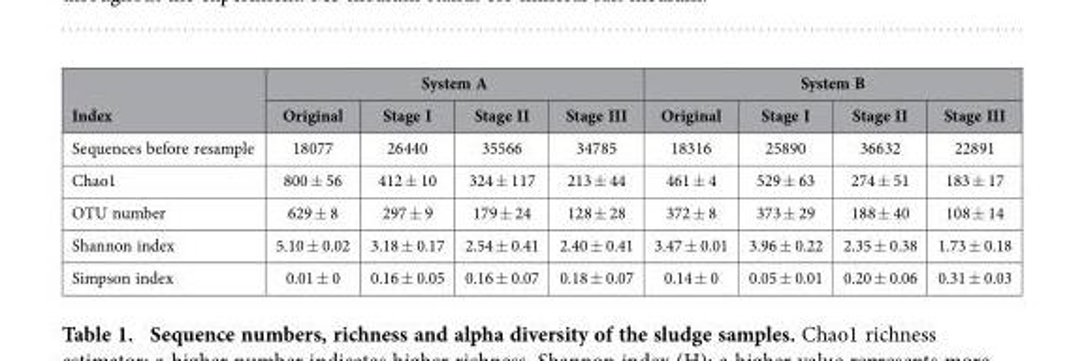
<table><thead><tr><td rowspan="2">Index</td><td colspan="4">System A</td><td colspan="4">System B</td></tr><tr><td>Original</td><td>Stage I</td><td>Stage II</td><td>Stage III</td><td>Original</td><td>Stage I</td><td>Stage II</td><td>Stage III</td></tr></thead><tbody><tr><td>Sequences before resample</td><td>18077</td><td>26440</td><td>35566</td><td>34785</td><td>18316</td><td>25890</td><td>36632</td><td>22891</td></tr><tr><td>Chao1</td><td>800 ± 56</td><td>412 ± 10</td><td>324 ± 117</td><td>213 ± 44</td><td>461 ± 4</td><td>529 ± 63</td><td>274 ± 51</td><td>183 ± 17</td></tr><tr><td>OTU number</td><td>629 ± 8</td><td>297 ± 9</td><td>179 ± 24</td><td>128 ± 28</td><td>372 ± 8</td><td>373 ± 29</td><td>188 ± 40</td><td>108 ± 14</td></tr><tr><td>Shannon index</td><td>5.10 ± 0.02</td><td>3.18 ± 0.17</td><td>2.54 ± 0.41</td><td>2.40 ± 0.41</td><td>3.47 ± 0.01</td><td>3.96 ± 0.22</td><td>2.35 ± 0.38</td><td>1.73 ± 0.18</td></tr><tr><td>Simpson index</td><td>0.01 ± 0</td><td>0.16 ± 0.05</td><td>0.16 ± 0.07</td><td>0.18 ± 0.07</td><td>0.14 ± 0</td><td>0.05 ± 0.01</td><td>0.20 ± 0.06</td><td>0.31 ± 0.03</td></tr></tbody></table>